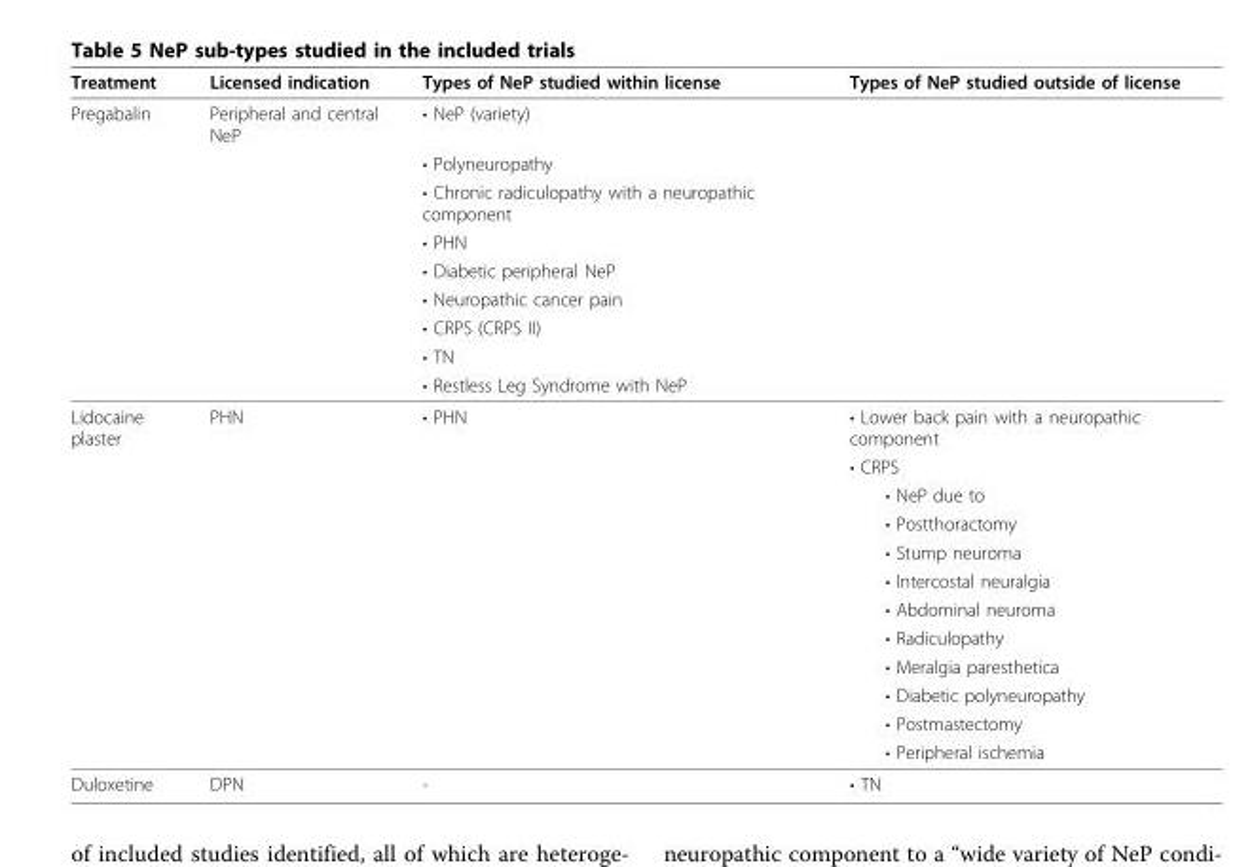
<table><thead><tr><td>Treatment</td><td>Licensed indication</td><td>Types of NeP studied within license</td><td>Types of NeP studied outside of license</td></tr></thead><tbody><tr><td rowspan="9">Pregabalin</td><td>Peripheral and central NeP</td><td>• NeP (variety)</td><td></td></tr><tr><td></td><td>• Polyneuropathy</td><td></td></tr><tr><td></td><td>• Chronic radiculopathy with a neuropathic component</td><td></td></tr><tr><td></td><td>• PHN</td><td></td></tr><tr><td></td><td>• Diabetic peripheral NeP</td><td></td></tr><tr><td></td><td>• Neuropathic cancer pain</td><td></td></tr><tr><td></td><td>• CRPS (CRPS II)</td><td></td></tr><tr><td></td><td>• TN</td><td></td></tr><tr><td></td><td>• Restless Leg Syndrome with NeP</td><td></td></tr><tr><td rowspan="12">Lidocaine plaster</td><td>PHN</td><td>• PHN</td><td>• Lower back pain with a neuropathic component</td></tr><tr><td></td><td></td><td>• CRPS</td></tr><tr><td></td><td></td><td>• NeP due to</td></tr><tr><td></td><td></td><td>• Postthoractomy</td></tr><tr><td></td><td></td><td>• Stump neuroma</td></tr><tr><td></td><td></td><td>• Intercostal neuralgia</td></tr><tr><td></td><td></td><td>• Abdominal neuroma</td></tr><tr><td></td><td></td><td>• Radiculopathy</td></tr><tr><td></td><td></td><td>• Meralgia paresthetica</td></tr><tr><td></td><td></td><td>• Diabetic polyneuropathy</td></tr><tr><td></td><td></td><td>• Postmastectomy</td></tr><tr><td></td><td></td><td>• Peripheral ischemia</td></tr><tr><td>Duloxetine</td><td>DPN</td><td>-</td><td>• TN</td></tr></tbody></table>